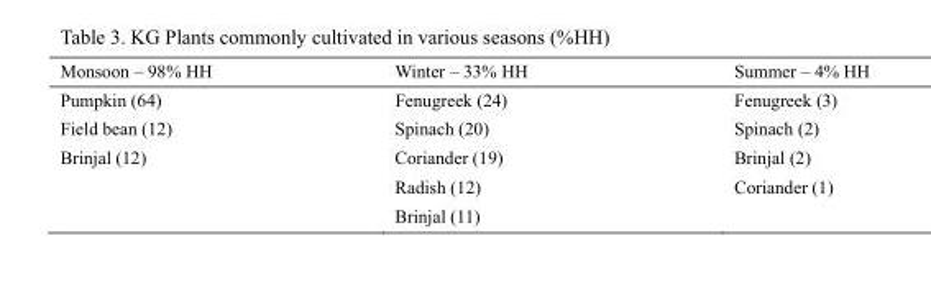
<table><thead><tr><td>Monsoon – 98% HH</td><td>Winter – 33% HH</td><td>Summer – 4% HH</td></tr></thead><tbody><tr><td>Pumpkin (64)</td><td>Fenugreek (24)</td><td>Fenugreek (3)</td></tr><tr><td>Field bean (12)</td><td>Spinach (20)</td><td>Spinach (2)</td></tr><tr><td rowspan="3">Brinjal (12)</td><td>Coriander (19)</td><td>Brinjal (2)</td></tr><tr><td>Radish (12)</td><td>Coriander (1)</td></tr><tr><td>Brinjal (11)</td><td></td></tr></tbody></table>